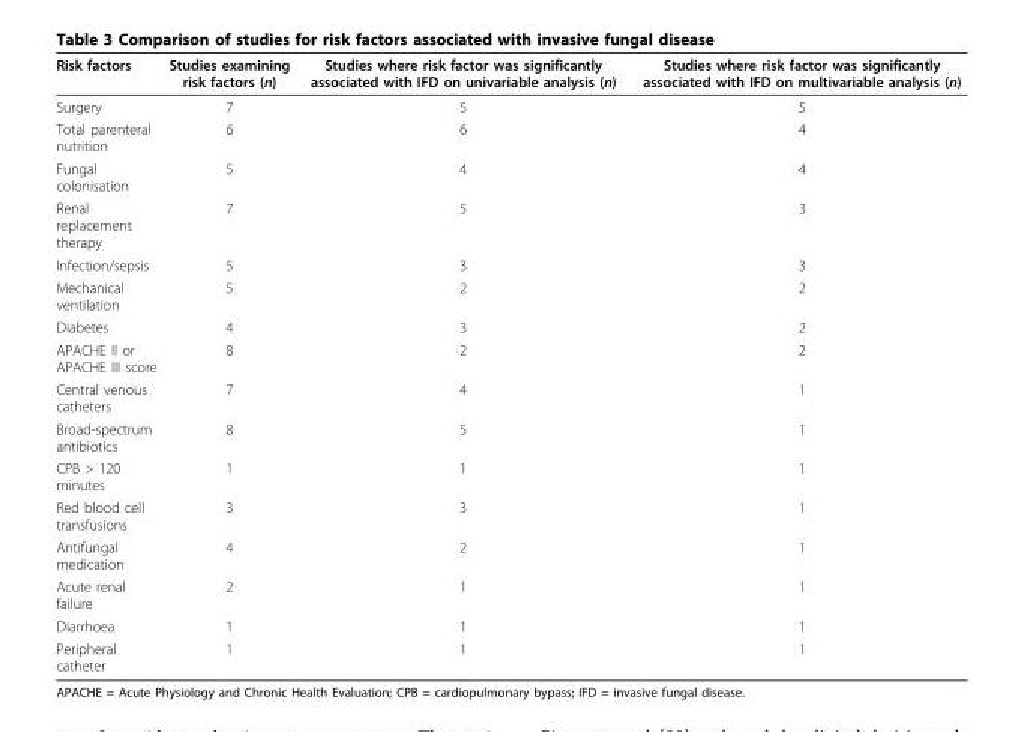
<table><thead><tr><td>Risk factors</td><td>Studies examining risk factors (n)</td><td>Studies where risk factor was significantly associated with IFD on univariable analysis (n)</td><td>Studies where risk factor was significantly associated with IFD on multivariable analysis (n)</td></tr></thead><tbody><tr><td>Surgery</td><td>7</td><td>5</td><td>5</td></tr><tr><td>Total parenteral nutrition</td><td>6</td><td>6</td><td>4</td></tr><tr><td>Fungal colonisation</td><td>5</td><td>4</td><td>4</td></tr><tr><td>Renal replacement therapy</td><td>7</td><td>5</td><td>3</td></tr><tr><td>Infection/sepsis</td><td>5</td><td>3</td><td>3</td></tr><tr><td>Mechanical ventilation</td><td>5</td><td>2</td><td>2</td></tr><tr><td>Diabetes</td><td>4</td><td>3</td><td>2</td></tr><tr><td>APACHE II or APACHE III score</td><td>8</td><td>2</td><td>2</td></tr><tr><td>Central venous catheters</td><td>7</td><td>4</td><td>1</td></tr><tr><td>Broad-spectrum antibiotics</td><td>8</td><td>5</td><td>1</td></tr><tr><td>CPB &gt; 120 minutes</td><td>1</td><td>1</td><td>1</td></tr><tr><td>Red blood cell transfusions</td><td>3</td><td>3</td><td>1</td></tr><tr><td>Antifungal medication</td><td>4</td><td>2</td><td>1</td></tr><tr><td>Acute renal failure</td><td>2</td><td>1</td><td>1</td></tr><tr><td>Diarrhoea</td><td>1</td><td>1</td><td>1</td></tr><tr><td>Peripheral catheter</td><td>1</td><td>1</td><td>1</td></tr></tbody></table>